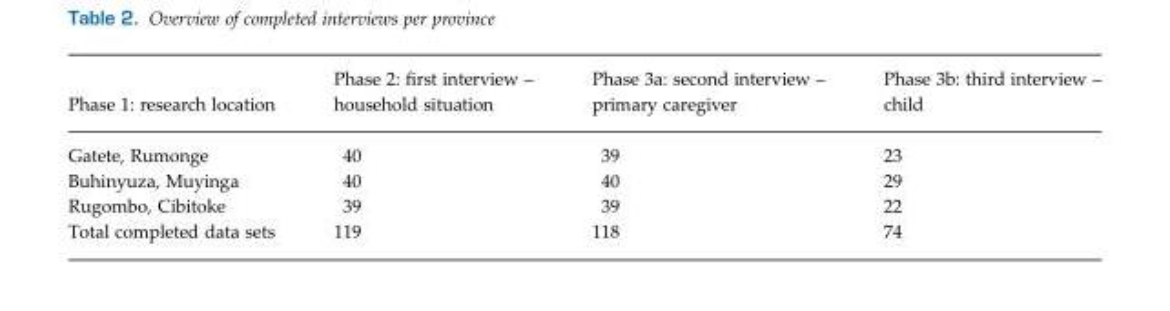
<table><thead><tr><td>Phase 1: research location</td><td>Phase 2: first interview – household situation</td><td>Phase 3a: second interview – primary caregiver</td><td>Phase 3b: third interview – child</td></tr></thead><tbody><tr><td>Gatete, Rumonge</td><td>40</td><td>39</td><td>23</td></tr><tr><td>Buhinyuza, Muyinga</td><td>40</td><td>40</td><td>29</td></tr><tr><td>Rugombo, Cibitoke</td><td>39</td><td>39</td><td>22</td></tr><tr><td>Total completed data sets</td><td>119</td><td>118</td><td>74</td></tr></tbody></table>